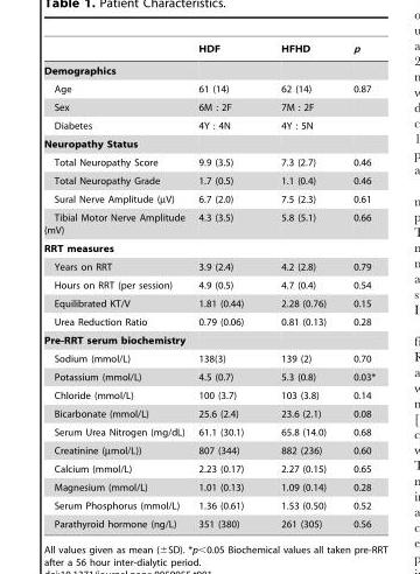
<table><thead><tr><td></td><td>HDF</td><td>HFHD</td><td>p</td></tr></thead><tbody><tr><td colspan="4">Demographics</td></tr><tr><td>Age</td><td>61 (14)</td><td>62 (14)</td><td>0.87</td></tr><tr><td>Sex</td><td>6M : 2F</td><td>7M : 2F</td><td></td></tr><tr><td>Diabetes</td><td>4Y : 4N</td><td>4Y : 5N</td><td></td></tr><tr><td colspan="4">Neuropathy Status</td></tr><tr><td>Total Neuropathy Score</td><td>9.9 (3.5)</td><td>7.3 (2.7)</td><td>0.46</td></tr><tr><td>Total Neuropathy Grade</td><td>1.7 (0.5)</td><td>1.1 (0.4)</td><td>0.46</td></tr><tr><td>Sural Nerve Amplitude (µV)</td><td>6.7 (2.0)</td><td>7.5 (2.3)</td><td>0.61</td></tr><tr><td>Tibial Motor Nerve Amplitude (mV)</td><td>4.3 (3.5)</td><td>5.8 (5.1)</td><td>0.66</td></tr><tr><td colspan="4">RRT measures</td></tr><tr><td>Years on RRT</td><td>3.9 (2.4)</td><td>4.2 (2.8)</td><td>0.79</td></tr><tr><td>Hours on RRT (per session)</td><td>4.9 (0.5)</td><td>4.7 (0.4)</td><td>0.54</td></tr><tr><td>Equilibrated KT/V</td><td>1.81 (0.44)</td><td>2.28 (0.76)</td><td>0.15</td></tr><tr><td>Urea Reduction Ratio</td><td>0.79 (0.06)</td><td>0.81 (0.13)</td><td>0.28</td></tr><tr><td colspan="4">Pre-RRT serum biochemistry</td></tr><tr><td>Sodium (mmol/L)</td><td>138(3)</td><td>139 (2)</td><td>0.70</td></tr><tr><td>Potassium (mmol/L)</td><td>4.5 (0.7)</td><td>5.3 (0.8)</td><td>0.03*</td></tr><tr><td>Chloride (mmol/L)</td><td>100 (3.7)</td><td>103 (3.8)</td><td>0.14</td></tr><tr><td>Bicarbonate (mmol/L)</td><td>25.6 (2.4)</td><td>23.6 (2.1)</td><td>0.08</td></tr><tr><td>Serum Urea Nitrogen (mg/dL)</td><td>61.1 (30.1)</td><td>65.8 (14.0)</td><td>0.68</td></tr><tr><td>Creatinine (µmol/L))</td><td>807 (344)</td><td>882 (236)</td><td>0.60</td></tr><tr><td>Calcium (mmol/L)</td><td>2.23 (0.17)</td><td>2.27 (0.15)</td><td>0.65</td></tr><tr><td>Magnesium (mmol/L)</td><td>1.01 (0.13)</td><td>1.09 (0.14)</td><td>0.28</td></tr><tr><td>Serum Phosphorus (mmol/L)</td><td>1.36 (0.61)</td><td>1.53 (0.50)</td><td>0.52</td></tr><tr><td>Parathyroid hormone (ng/L)</td><td>351 (380)</td><td>261 (305)</td><td>0.56</td></tr></tbody></table>